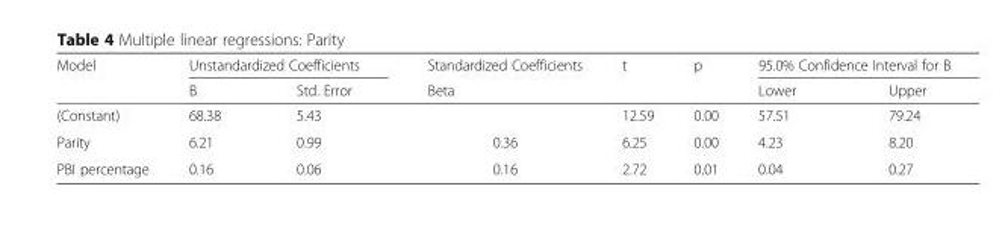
<table><thead><tr><td rowspan="2">Model</td><td colspan="2">Unstandardized Coefficients</td><td rowspan="2">Standardized Coefficients Beta</td><td rowspan="2">t</td><td rowspan="2">p</td><td colspan="2">95.0% Confidence Interval for B</td></tr><tr><td>B</td><td>Std. Error</td><td>Lower</td><td>Upper</td></tr></thead><tbody><tr><td>(Constant)</td><td>68.38</td><td>5.43</td><td></td><td>12.59</td><td>0.00</td><td>57.51</td><td>79.24</td></tr><tr><td>Parity</td><td>6.21</td><td>0.99</td><td>0.36</td><td>6.25</td><td>0.00</td><td>4.23</td><td>8.20</td></tr><tr><td>PBI percentage</td><td>0.16</td><td>0.06</td><td>0.16</td><td>2.72</td><td>0.01</td><td>0.04</td><td>0.27</td></tr></tbody></table>